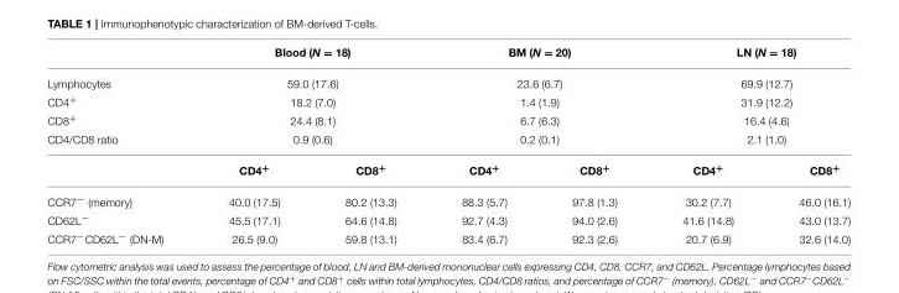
<table><thead><tr><td></td><td colspan="2">Blood (N = 18)</td><td colspan="2">BM (N = 20)</td><td colspan="2">LN (N = 18)</td></tr></thead><tbody><tr><td>Lymphocytes</td><td colspan="2">59.0 (17.6)</td><td colspan="2">23.6 (6.7)</td><td colspan="2">69.9 (12.7)</td></tr><tr><td>CD4<sup>+</sup></td><td colspan="2">18.2 (7.0)</td><td colspan="2">1.4 (1.9)</td><td colspan="2">31.9 (12.2)</td></tr><tr><td>CD8<sup>+</sup></td><td colspan="2">24.4 (8.1)</td><td colspan="2">6.7 (6.3)</td><td colspan="2">16.4 (4.6)</td></tr><tr><td rowspan="2">CD4/CD8 ratio</td><td colspan="2">0.9 (0.6)</td><td colspan="2">0.2 (0.1)</td><td colspan="2">2.1 (1.0)</td></tr><tr><td>CD4<sup>+</sup></td><td>CD8<sup>+</sup></td><td>CD4<sup>+</sup></td><td>CD8<sup>+</sup></td><td>CD4<sup>+</sup></td><td>CD8<sup>+</sup></td></tr><tr><td>CCR7<sup>−</sup> (memory)</td><td>40.0 (17.5)</td><td>80.2 (13.3)</td><td>88.3 (5.7)</td><td>97.8 (1.3)</td><td>30.2 (7.7)</td><td>46.0 (16.1)</td></tr><tr><td>CD62L<sup>−</sup></td><td>45.5 (17.1)</td><td>64.6 (14.8)</td><td>92.7 (4.3)</td><td>94.0 (2.6)</td><td>41.6 (14.8)</td><td>43.0 (13.7)</td></tr><tr><td>CCR7<sup>−</sup>CD62L<sup>−</sup> (DN-M)</td><td>26.5 (9.0)</td><td>59.8 (13.1)</td><td>83.4 (6.7)</td><td>92.3 (2.6)</td><td>20.7 (6.9)</td><td>32.6 (14.0)</td></tr></tbody></table>